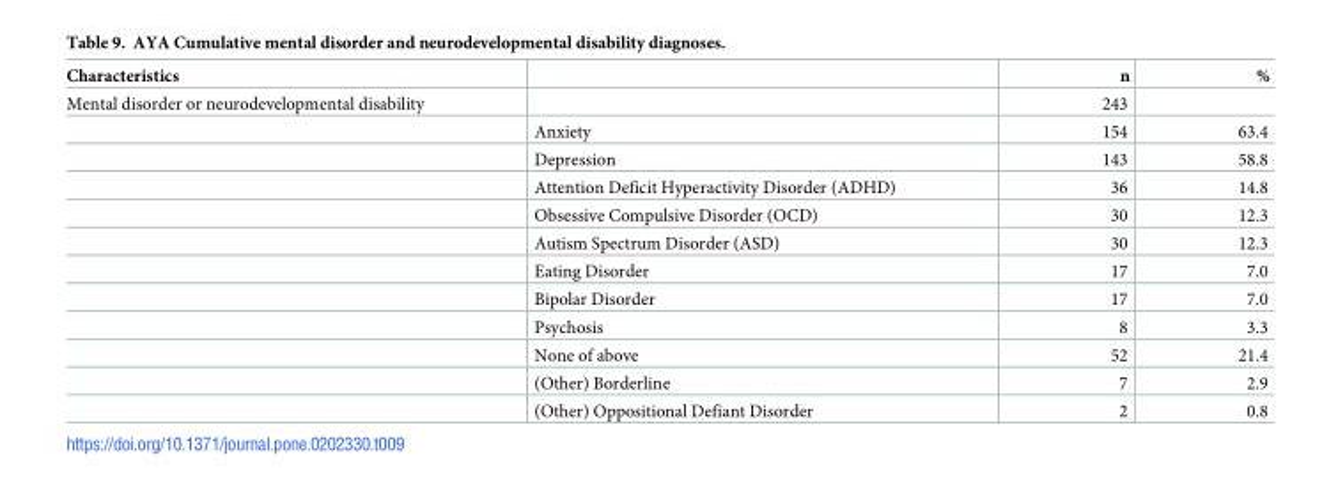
<table><thead><tr><td>Characteristics</td><td></td><td>n</td><td>%</td></tr></thead><tbody><tr><td rowspan="12">Mental disorder or neurodevelopmental disability</td><td></td><td>243</td><td></td></tr><tr><td>Anxiety</td><td>154</td><td>63.4</td></tr><tr><td>Depression</td><td>143</td><td>58.8</td></tr><tr><td>Attention Deficit Hyperactivity Disorder (ADHD)</td><td>36</td><td>14.8</td></tr><tr><td>Obsessive Compulsive Disorder (OCD)</td><td>30</td><td>12.3</td></tr><tr><td>Autism Spectrum Disorder (ASD)</td><td>30</td><td>12.3</td></tr><tr><td>Eating Disorder</td><td>17</td><td>7.0</td></tr><tr><td>Bipolar Disorder</td><td>17</td><td>7.0</td></tr><tr><td>Psychosis</td><td>8</td><td>3.3</td></tr><tr><td>None of above</td><td>52</td><td>21.4</td></tr><tr><td>(Other) Borderline</td><td>7</td><td>2.9</td></tr><tr><td>(Other) Oppositional Defiant Disorder</td><td>2</td><td>0.8</td></tr></tbody></table>